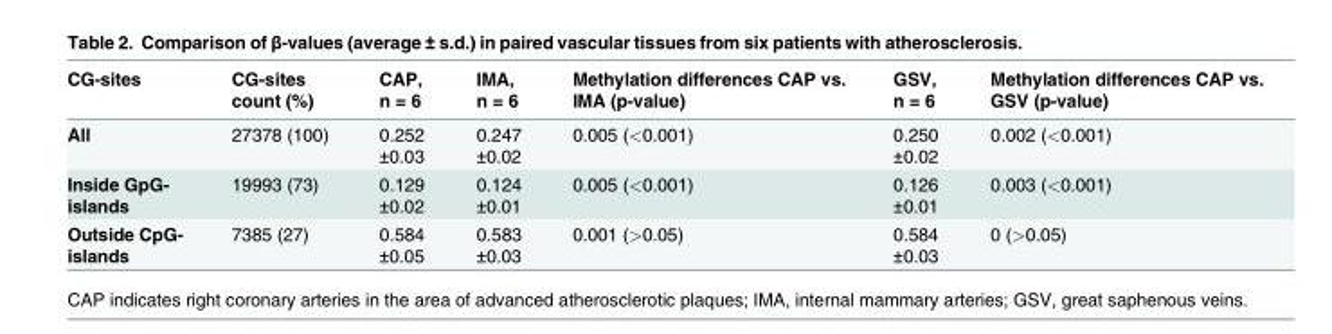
<table><thead><tr><td>CG-sites</td><td>CG-sites count (%)</td><td>CAP, n = 6</td><td>IMA, n = 6</td><td>Methylation differences CAP vs. IMA (p-value)</td><td>GSV, n = 6</td><td>Methylation differences CAP vs. GSV (p-value)</td></tr></thead><tbody><tr><td>All</td><td>27378 (100)</td><td>0.252 ±0.03</td><td>0.247 ±0.02</td><td>0.005 (&lt;0.001)</td><td>0.250 ±0.02</td><td>0.002 (&lt;0.001)</td></tr><tr><td>Inside GpG- islands</td><td>19993 (73)</td><td>0.129 ±0.02</td><td>0.124 ±0.01</td><td>0.005 (&lt;0.001)</td><td>0.126 ±0.01</td><td>0.003 (&lt;0.001)</td></tr><tr><td>Outside CpG- islands</td><td>7385 (27)</td><td>0.584 ±0.05</td><td>0.583 ±0.03</td><td>0.001 (&gt;0.05)</td><td>0.584 ±0.03</td><td>0 (&gt;0.05)</td></tr></tbody></table>